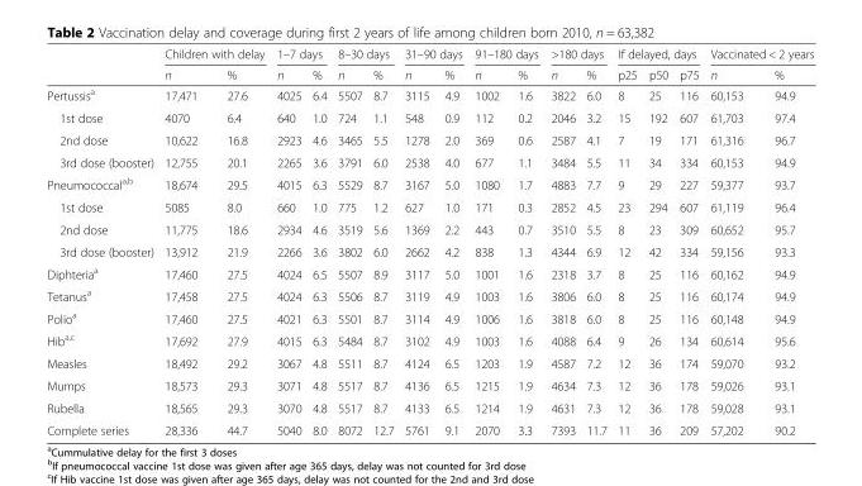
<table><thead><tr><td rowspan="2"></td><td colspan="2">Children with delay</td><td colspan="2">1–7 days</td><td colspan="2">8–30 days</td><td colspan="2">31–90 days</td><td colspan="2">91–180 days</td><td colspan="2">&gt;180 days</td><td colspan="3">If delayed, days</td><td colspan="2">Vaccinated &lt; 2 years</td></tr><tr><td>n</td><td>%</td><td>n</td><td>%</td><td>n</td><td>%</td><td>n</td><td>%</td><td>n</td><td>%</td><td>n</td><td>%</td><td>p25</td><td>p50</td><td>p75</td><td>n</td><td>%</td></tr></thead><tbody><tr><td>Pertussis<sup>a</sup></td><td>17,471</td><td>27.6</td><td>4025</td><td>6.4</td><td>5507</td><td>8.7</td><td>3115</td><td>4.9</td><td>1002</td><td>1.6</td><td>3822</td><td>6.0</td><td>8</td><td>25</td><td>116</td><td>60,153</td><td>94.9</td></tr><tr><td>1st dose</td><td>4070</td><td>6.4</td><td>640</td><td>1.0</td><td>724</td><td>1.1</td><td>548</td><td>0.9</td><td>112</td><td>0.2</td><td>2046</td><td>3.2</td><td>15</td><td>192</td><td>607</td><td>61,703</td><td>97.4</td></tr><tr><td>2nd dose</td><td>10,622</td><td>16.8</td><td>2923</td><td>4.6</td><td>3465</td><td>5.5</td><td>1278</td><td>2.0</td><td>369</td><td>0.6</td><td>2587</td><td>4.1</td><td>7</td><td>19</td><td>171</td><td>61,316</td><td>96.7</td></tr><tr><td>3rd dose (booster)</td><td>12,755</td><td>20.1</td><td>2265</td><td>3.6</td><td>3791</td><td>6.0</td><td>2538</td><td>4.0</td><td>677</td><td>1.1</td><td>3484</td><td>5.5</td><td>11</td><td>34</td><td>334</td><td>60,153</td><td>94.9</td></tr><tr><td>Pneumococcal<sup>a,b</sup></td><td>18,674</td><td>29.5</td><td>4015</td><td>6.3</td><td>5529</td><td>8.7</td><td>3167</td><td>5.0</td><td>1080</td><td>1.7</td><td>4883</td><td>7.7</td><td>9</td><td>29</td><td>227</td><td>59,377</td><td>93.7</td></tr><tr><td>1st dose</td><td>5085</td><td>8.0</td><td>660</td><td>1.0</td><td>775</td><td>1.2</td><td>627</td><td>1.0</td><td>171</td><td>0.3</td><td>2852</td><td>4.5</td><td>23</td><td>294</td><td>607</td><td>61,119</td><td>96.4</td></tr><tr><td>2nd dose</td><td>11,775</td><td>18.6</td><td>2934</td><td>4.6</td><td>3519</td><td>5.6</td><td>1369</td><td>2.2</td><td>443</td><td>0.7</td><td>3510</td><td>5.5</td><td>8</td><td>23</td><td>309</td><td>60,652</td><td>95.7</td></tr><tr><td>3rd dose (booster)</td><td>13,912</td><td>21.9</td><td>2266</td><td>3.6</td><td>3802</td><td>6.0</td><td>2662</td><td>4.2</td><td>838</td><td>1.3</td><td>4344</td><td>6.9</td><td>12</td><td>42</td><td>334</td><td>59,156</td><td>93.3</td></tr><tr><td>Diphteria<sup>a</sup></td><td>17,460</td><td>27.5</td><td>4024</td><td>6.5</td><td>5507</td><td>8.9</td><td>3117</td><td>5.0</td><td>1001</td><td>1.6</td><td>2318</td><td>3.7</td><td>8</td><td>25</td><td>116</td><td>60,162</td><td>94.9</td></tr><tr><td>Tetanus<sup>a</sup></td><td>17,458</td><td>27.5</td><td>4024</td><td>6.3</td><td>5506</td><td>8.7</td><td>3119</td><td>4.9</td><td>1003</td><td>1.6</td><td>3806</td><td>6.0</td><td>8</td><td>25</td><td>116</td><td>60,174</td><td>94.9</td></tr><tr><td>Polio<sup>a</sup></td><td>17,460</td><td>27.5</td><td>4021</td><td>6.3</td><td>5501</td><td>8.7</td><td>3114</td><td>4.9</td><td>1006</td><td>1.6</td><td>3818</td><td>6.0</td><td>8</td><td>25</td><td>116</td><td>60,148</td><td>94.9</td></tr><tr><td>Hib<sup>a,c</sup></td><td>17,692</td><td>27.9</td><td>4015</td><td>6.3</td><td>5484</td><td>8.7</td><td>3102</td><td>4.9</td><td>1003</td><td>1.6</td><td>4088</td><td>6.4</td><td>9</td><td>26</td><td>134</td><td>60,614</td><td>95.6</td></tr><tr><td>Measles</td><td>18,492</td><td>29.2</td><td>3067</td><td>4.8</td><td>5511</td><td>8.7</td><td>4124</td><td>6.5</td><td>1203</td><td>1.9</td><td>4587</td><td>7.2</td><td>12</td><td>36</td><td>174</td><td>59,070</td><td>93.2</td></tr><tr><td>Mumps</td><td>18,573</td><td>29.3</td><td>3071</td><td>4.8</td><td>5517</td><td>8.7</td><td>4136</td><td>6.5</td><td>1215</td><td>1.9</td><td>4634</td><td>7.3</td><td>12</td><td>36</td><td>178</td><td>59,026</td><td>93.1</td></tr><tr><td>Rubella</td><td>18,565</td><td>29.3</td><td>3070</td><td>4.8</td><td>5517</td><td>8.7</td><td>4133</td><td>6.5</td><td>1214</td><td>1.9</td><td>4631</td><td>7.3</td><td>12</td><td>36</td><td>178</td><td>59,028</td><td>93.1</td></tr><tr><td>Complete series</td><td>28,336</td><td>44.7</td><td>5040</td><td>8.0</td><td>8072</td><td>12.7</td><td>5761</td><td>9.1</td><td>2070</td><td>3.3</td><td>7393</td><td>11.7</td><td>11</td><td>36</td><td>209</td><td>57,202</td><td>90.2</td></tr></tbody></table>